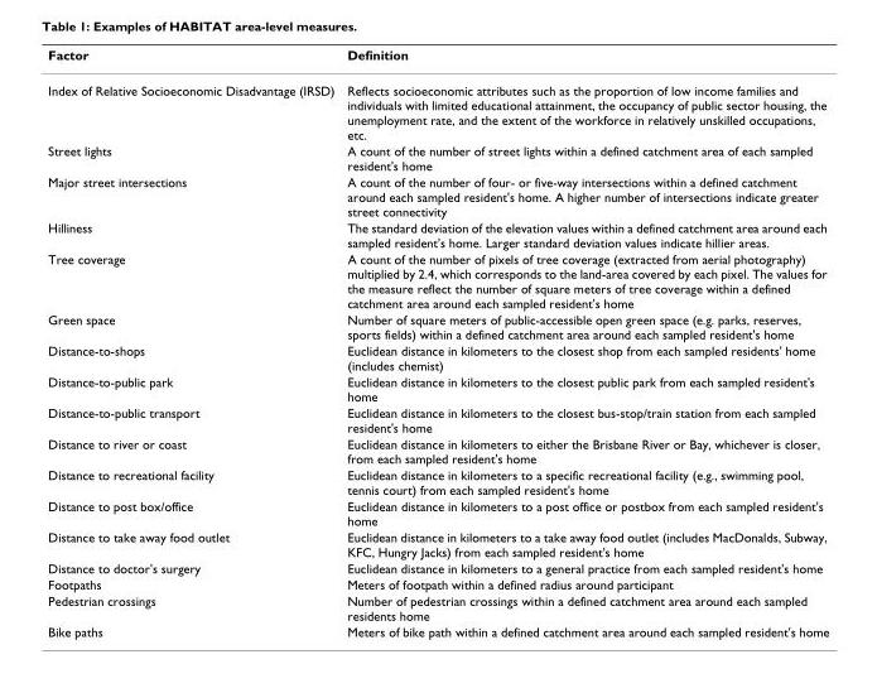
<table><thead><tr><td>Factor</td><td>Definition</td></tr></thead><tbody><tr><td>Index of Relative Socioeconomic Disadvantage (IRSD)</td><td>Reflects socioeconomic attributes such as the proportion of low income families and individuals with limited educational attainment, the occupancy of public sector housing, the unemployment rate, and the extent of the workforce in relatively unskilled occupations, etc.</td></tr><tr><td>Street lights</td><td>A count of the number of street lights within a defined catchment area of each sampled resident&#x27;s home</td></tr><tr><td>Major street intersections</td><td>A count of the number of four- or five-way intersections within a defined catchment around each sampled resident&#x27;s home. A higher number of intersections indicate greater street connectivity</td></tr><tr><td>Hilliness</td><td>The standard deviation of the elevation values within a defined catchment area around each sampled resident&#x27;s home. Larger standard deviation values indicate hillier areas.</td></tr><tr><td>Tree coverage</td><td>A count of the number of pixels of tree coverage (extracted from aerial photography) multiplied by 2.4, which corresponds to the land-area covered by each pixel. The values for the measure reflect the number of square meters of tree coverage within a defined catchment area around each sampled resident&#x27;s home</td></tr><tr><td>Green space</td><td>Number of square meters of public-accessible open green space (e.g. parks, reserves, sports fields) within a defined catchment area around each sampled resident&#x27;s home</td></tr><tr><td>Distance-to-shops</td><td>Euclidean distance in kilometers to the closest shop from each sampled residents&#x27; home (includes chemist)</td></tr><tr><td>Distance-to-public park</td><td>Euclidean distance in kilometers to the closest public park from each sampled resident&#x27;s home</td></tr><tr><td>Distance-to-public transport</td><td>Euclidean distance in kilometers to the closest bus-stop/train station from each sampled resident&#x27;s home</td></tr><tr><td>Distance to river or coast</td><td>Euclidean distance in kilometers to either the Brisbane River or Bay, whichever is closer, from each sampled resident&#x27;s home</td></tr><tr><td>Distance to recreational facility</td><td>Euclidean distance in kilometers to a specific recreational facility (e.g., swimming pool, tennis court) from each sampled resident&#x27;s home</td></tr><tr><td>Distance to post box/office</td><td>Euclidean distance in kilometers to a post office or postbox from each sampled resident&#x27;s home</td></tr><tr><td>Distance to take away food outlet</td><td>Euclidean distance in kilometers to a take away food outlet (includes MacDonalds, Subway, KFC, Hungry Jacks) from each sampled resident&#x27;s home</td></tr><tr><td>Distance to doctor&#x27;s surgery</td><td>Euclidean distance in kilometers to a general practice from each sampled resident&#x27;s home</td></tr><tr><td>Footpaths</td><td>Meters of footpath within a defined radius around participant</td></tr><tr><td>Pedestrian crossings</td><td>Number of pedestrian crossings within a defined catchment area around each sampled residents home</td></tr><tr><td>Bike paths</td><td>Meters of bike path within a defined catchment area around each sampled resident&#x27;s home</td></tr></tbody></table>